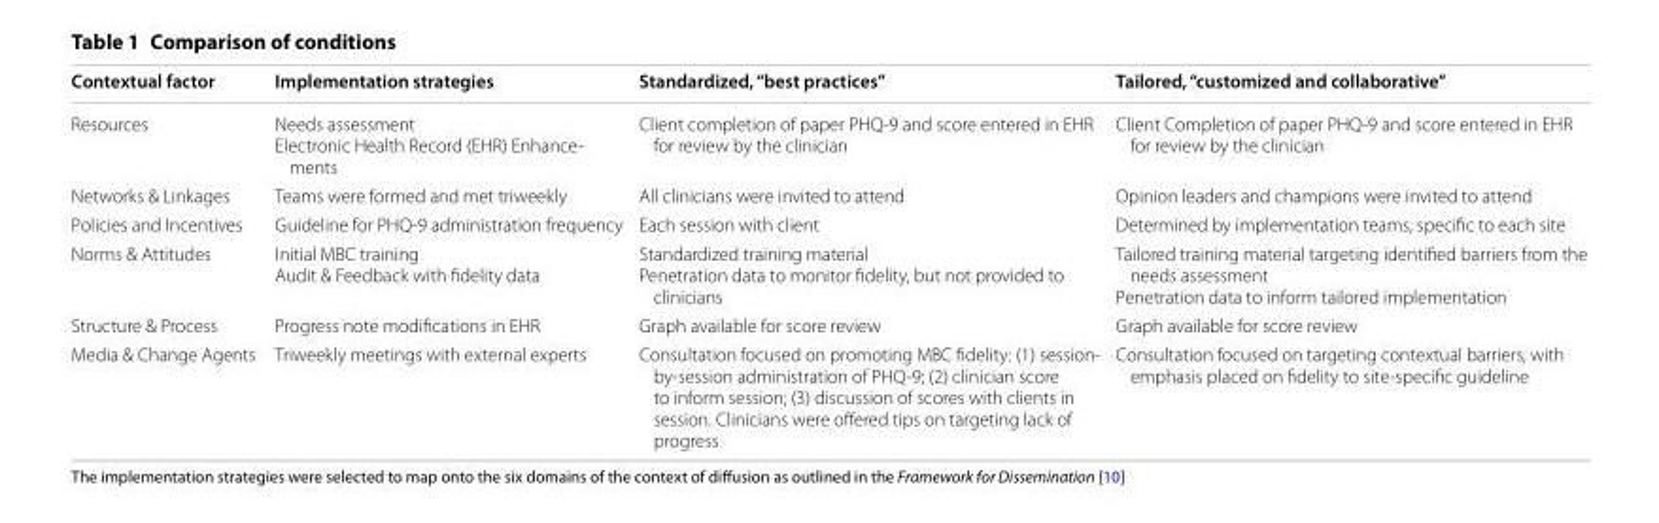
<table><thead><tr><td>Contextual factor</td><td>Implementation strategies</td><td>Standardized, “best practices”</td><td>Tailored, “customized and collaborative”</td></tr></thead><tbody><tr><td>Resources</td><td>Needs assessment Electronic Health Record (EHR) Enhance- ments</td><td>Client completion of paper PHQ-9 and score entered in EHR for review by the clinician</td><td>Client Completion of paper PHQ-9 and score entered in EHR for review by the clinician</td></tr><tr><td>Networks &amp; Linkages</td><td>Teams were formed and met triweekly</td><td>All clinicians were invited to attend</td><td>Opinion leaders and champions were invited to attend</td></tr><tr><td>Policies and Incentives</td><td>Guideline for PHQ-9 administration frequency</td><td>Each session with client</td><td>Determined by implementation teams, specific to each site</td></tr><tr><td>Norms &amp; Attitudes</td><td>Initial MBC training Audit &amp; Feedback with fidelity data</td><td>Standardized training material Penetration data to monitor fidelity, but not provided to clinicians</td><td>Tailored training material targeting identified barriers from the needs assessment Penetration data to inform tailored implementation</td></tr><tr><td>Structure &amp; Process</td><td>Progress note modifications in EHR</td><td>Graph available for score review</td><td>Graph available for score review</td></tr><tr><td>Media &amp; Change Agents</td><td>Triweekly meetings with external experts</td><td>Consultation focused on promoting MBC fidelity: (1) session- by-session administration of PHQ-9; (2) clinician score to inform session; (3) discussion of scores with clients in session. Clinicians were offered tips on targeting lack of progress</td><td>Consultation focused on targeting contextual barriers, with emphasis placed on fidelity to site-specific guideline</td></tr></tbody></table>